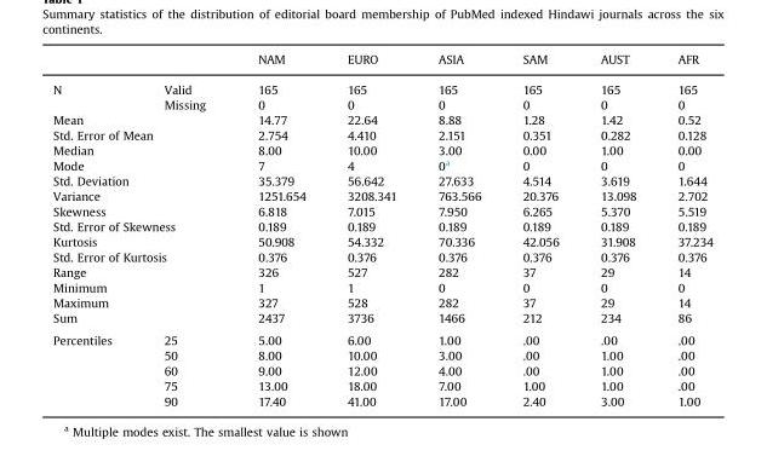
<table><thead><tr><td></td><td></td><td>NAM</td><td>EURO</td><td>ASIA</td><td>SAM</td><td>AUST</td><td>AFR</td></tr></thead><tbody><tr><td rowspan="2">N</td><td>Valid</td><td>165</td><td>165</td><td>165</td><td>165</td><td>165</td><td>165</td></tr><tr><td>Missing</td><td>0</td><td>0</td><td>0</td><td>0</td><td>0</td><td>0</td></tr><tr><td colspan="2">Mean</td><td>14.77</td><td>22.64</td><td>8.88</td><td>1.28</td><td>1.42</td><td>0.52</td></tr><tr><td colspan="2">Std. Error of Mean</td><td>2.754</td><td>4.410</td><td>2.151</td><td>0.351</td><td>0.282</td><td>0.128</td></tr><tr><td colspan="2">Median</td><td>8.00</td><td>10.00</td><td>3.00</td><td>0.00</td><td>1.00</td><td>0.00</td></tr><tr><td colspan="2">Mode</td><td>7</td><td>4</td><td>0<sup>a</sup></td><td>0</td><td>0</td><td>0</td></tr><tr><td colspan="2">Std. Deviation</td><td>35.379</td><td>56.642</td><td>27.633</td><td>4.514</td><td>3.619</td><td>1.644</td></tr><tr><td colspan="2">Variance</td><td>1251.654</td><td>3208.341</td><td>763.566</td><td>20.376</td><td>13.098</td><td>2.702</td></tr><tr><td colspan="2">Skewness</td><td>6.818</td><td>7.015</td><td>7.950</td><td>6.265</td><td>5.370</td><td>5.519</td></tr><tr><td colspan="2">Std. Error of Skewness</td><td>0.189</td><td>0.189</td><td>0.189</td><td>0.189</td><td>0.189</td><td>0.189</td></tr><tr><td colspan="2">Kurtosis</td><td>50.908</td><td>54.332</td><td>70.336</td><td>42.056</td><td>31.908</td><td>37.234</td></tr><tr><td colspan="2">Std. Error of Kurtosis</td><td>0.376</td><td>0.376</td><td>0.376</td><td>0.376</td><td>0.376</td><td>0.376</td></tr><tr><td colspan="2">Range</td><td>326</td><td>527</td><td>282</td><td>37</td><td>29</td><td>14</td></tr><tr><td colspan="2">Minimum</td><td>1</td><td>1</td><td>0</td><td>0</td><td>0</td><td>0</td></tr><tr><td colspan="2">Maximum</td><td>327</td><td>528</td><td>282</td><td>37</td><td>29</td><td>14</td></tr><tr><td colspan="2">Sum</td><td>2437</td><td>3736</td><td>1466</td><td>212</td><td>234</td><td>86</td></tr><tr><td rowspan="5">Percentiles</td><td>25</td><td>5.00</td><td>6.00</td><td>1.00</td><td>.00</td><td>.00</td><td>.00</td></tr><tr><td>50</td><td>8.00</td><td>10.00</td><td>3.00</td><td>.00</td><td>1.00</td><td>.00</td></tr><tr><td>60</td><td>9.00</td><td>12.00</td><td>4.00</td><td>.00</td><td>1.00</td><td>.00</td></tr><tr><td>75</td><td>13.00</td><td>18.00</td><td>7.00</td><td>1.00</td><td>1.00</td><td>.00</td></tr><tr><td>90</td><td>17.40</td><td>41.00</td><td>17.00</td><td>2.40</td><td>3.00</td><td>1.00</td></tr></tbody></table>